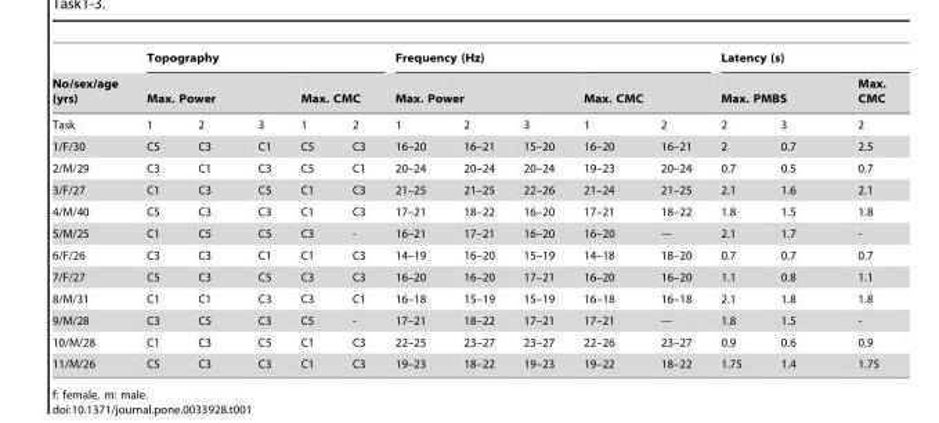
<table><thead><tr><td rowspan="3">No/sex/age (yrs) Task</td><td colspan="5">Topography</td><td colspan="5">Frequency (Hz)</td><td colspan="3">Latency (s)</td></tr><tr><td colspan="3">Max. Power</td><td colspan="2">Max. CMC</td><td colspan="3">Max. Power</td><td colspan="2">Max. CMC</td><td colspan="2">Max. PMBS</td><td rowspan="2">Max. CMC 2</td></tr><tr><td>1</td><td>2</td><td>3</td><td>1</td><td>2</td><td>1</td><td>2</td><td>3</td><td>1</td><td>2</td><td>2</td><td>3</td></tr></thead><tbody><tr><td>1/F/30</td><td>C5</td><td>C3</td><td>C1</td><td>C5</td><td>C3</td><td>16–20</td><td>16–21</td><td>15–20</td><td>16–20</td><td>16–21</td><td>2</td><td>0.7</td><td>2.5</td></tr><tr><td>2/M/29</td><td>C3</td><td>C1</td><td>C3</td><td>C5</td><td>C1</td><td>20–24</td><td>20–24</td><td>20–24</td><td>19–23</td><td>20–24</td><td>0.7</td><td>0.5</td><td>0.7</td></tr><tr><td>3/F/27</td><td>C1</td><td>C3</td><td>C5</td><td>C1</td><td>C3</td><td>21–25</td><td>21–25</td><td>22–26</td><td>21–24</td><td>21–25</td><td>2.1</td><td>1.6</td><td>2.1</td></tr><tr><td>4/M/40</td><td>C5</td><td>C3</td><td>C3</td><td>C1</td><td>C3</td><td>17–21</td><td>18–22</td><td>16–20</td><td>17–21</td><td>18–22</td><td>1.8</td><td>1.5</td><td>1.8</td></tr><tr><td>5/M/25</td><td>C1</td><td>C5</td><td>C5</td><td>C3</td><td>-</td><td>16–21</td><td>17–21</td><td>16–20</td><td>16–20</td><td>---</td><td>2.1</td><td>1.7</td><td>-</td></tr><tr><td>6/F/26</td><td>C3</td><td>C3</td><td>C1</td><td>C1</td><td>C3</td><td>14–19</td><td>16–20</td><td>15–19</td><td>14–18</td><td>18–20</td><td>0.7</td><td>0.7</td><td>0.7</td></tr><tr><td>7/F/27</td><td>C5</td><td>C3</td><td>C5</td><td>C3</td><td>C3</td><td>16–20</td><td>16–20</td><td>17–21</td><td>16–20</td><td>16–20</td><td>1.1</td><td>0.8</td><td>1.1</td></tr><tr><td>8/M/31</td><td>C1</td><td>C1</td><td>C3</td><td>C3</td><td>C1</td><td>16–18</td><td>15–19</td><td>15–19</td><td>16–18</td><td>16–18</td><td>2.1</td><td>1.8</td><td>1.8</td></tr><tr><td>9/M/28</td><td>C3</td><td>C5</td><td>C3</td><td>C5</td><td>-</td><td>17–21</td><td>18–22</td><td>17–21</td><td>17–21</td><td>---</td><td>1.8</td><td>1.5</td><td>-</td></tr><tr><td>10/M/28</td><td>C1</td><td>C3</td><td>C5</td><td>C1</td><td>C3</td><td>22–25</td><td>23–27</td><td>23–27</td><td>22–26</td><td>23–27</td><td>0.9</td><td>0.6</td><td>0.9</td></tr><tr><td>11/M/26</td><td>C5</td><td>C3</td><td>C3</td><td>C1</td><td>C3</td><td>19–23</td><td>18–22</td><td>19–23</td><td>19–22</td><td>18–22</td><td>1.75</td><td>1.4</td><td>1.75</td></tr></tbody></table>